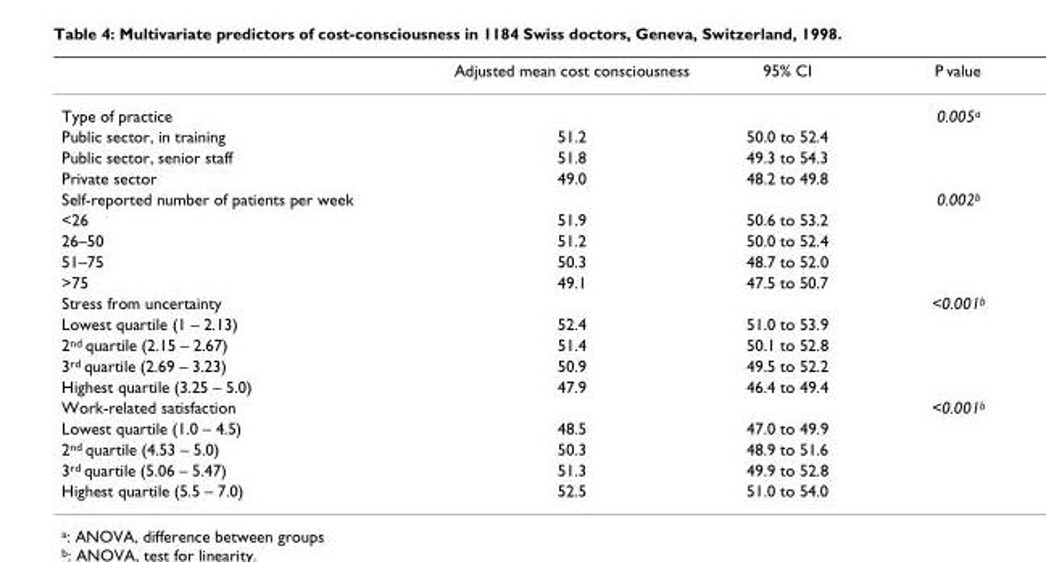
<table><thead><tr><td></td><td>Adjusted mean cost consciousness</td><td>95% CI</td><td>P value</td></tr></thead><tbody><tr><td>Type of practice</td><td></td><td></td><td>0.005<sup>a</sup></td></tr><tr><td>Public sector, in training</td><td>51.2</td><td>50.0 to 52.4</td><td></td></tr><tr><td>Public sector, senior staff</td><td>51.8</td><td>49.3 to 54.3</td><td></td></tr><tr><td>Private sector</td><td>49.0</td><td>48.2 to 49.8</td><td></td></tr><tr><td>Self-reported number of patients per week</td><td></td><td></td><td>0.002<sup>b</sup></td></tr><tr><td>&lt;26</td><td>51.9</td><td>50.6 to 53.2</td><td></td></tr><tr><td>26–50</td><td>51.2</td><td>50.0 to 52.4</td><td></td></tr><tr><td>51–75</td><td>50.3</td><td>48.7 to 52.0</td><td></td></tr><tr><td>&gt;75</td><td>49.1</td><td>47.5 to 50.7</td><td></td></tr><tr><td>Stress from uncertainty</td><td></td><td></td><td>&lt;0.001<sup>b</sup></td></tr><tr><td>Lowest quartile (1 – 2.13)</td><td>52.4</td><td>51.0 to 53.9</td><td></td></tr><tr><td>2<sup>nd</sup> quartile (2.15 – 2.67)</td><td>51.4</td><td>50.1 to 52.8</td><td></td></tr><tr><td>3<sup>rd</sup> quartile (2.69 – 3.23)</td><td>50.9</td><td>49.5 to 52.2</td><td></td></tr><tr><td>Highest quartile (3.25 – 5.0)</td><td>47.9</td><td>46.4 to 49.4</td><td></td></tr><tr><td>Work-related satisfaction</td><td></td><td></td><td>&lt;0.001<sup>b</sup></td></tr><tr><td>Lowest quartile (1.0 – 4.5)</td><td>48.5</td><td>47.0 to 49.9</td><td></td></tr><tr><td>2<sup>nd</sup> quartile (4.53 – 5.0)</td><td>50.3</td><td>48.9 to 51.6</td><td></td></tr><tr><td>3<sup>rd</sup> quartile (5.06 – 5.47)</td><td>51.3</td><td>49.9 to 52.8</td><td></td></tr><tr><td>Highest quartile (5.5 – 7.0)</td><td>52.5</td><td>51.0 to 54.0</td><td></td></tr></tbody></table>